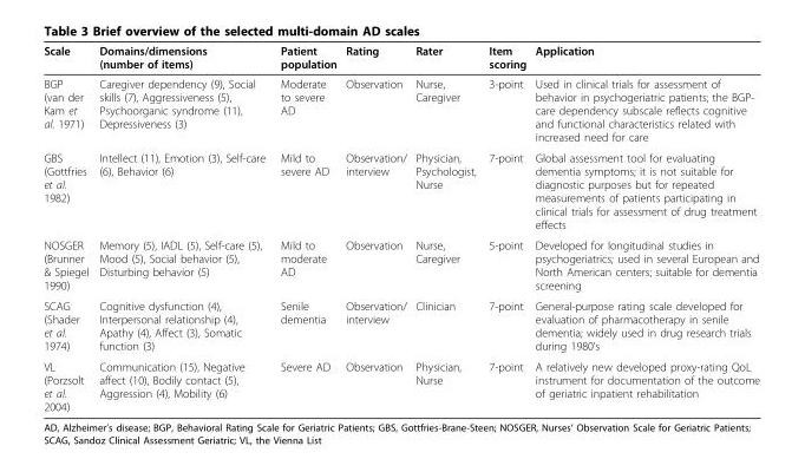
<table><thead><tr><td>Scale</td><td>Domains/dimensions (number of items)</td><td>Patient population</td><td>Rating</td><td>Rater</td><td>Item scoring</td><td>Application</td></tr></thead><tbody><tr><td>BGP (van der Kam et al. 1971)</td><td>Caregiver dependency (9), Social skills (7), Aggressiveness (5), Psychoorganic syndrome (11), Depressiveness (3)</td><td>Moderate to severe AD</td><td>Observation</td><td>Nurse, Caregiver</td><td>3-point</td><td>Used in clinical trials for assessment of behavior in psychogeriatric patients; the BGP- care dependency subscale reflects cognitive and functional characteristics related with increased need for care</td></tr><tr><td>GBS (Gottfries et al. 1982)</td><td>Intellect (11), Emotion (3), Self-care (6), Behavior (6)</td><td>Mild to severe AD</td><td>Observation/ interview</td><td>Physician, Psychologist, Nurse</td><td>7-point</td><td>Global assessment tool for evaluating dementia symptoms; it is not suitable for diagnostic purposes but for repeated measurements of patients participating in clinical trials for assessment of drug treatment effects</td></tr><tr><td>NOSGER (Brunner &amp; Spiegel 1990)</td><td>Memory (5), IADL (5), Self-care (5), Mood (5), Social behavior (5), Disturbing behavior (5)</td><td>Mild to moderate AD</td><td>Observation</td><td>Nurse, Caregiver</td><td>5-point</td><td>Developed for longitudinal studies in psychogeriatrics; used in several European and North American centers; suitable for dementia screening</td></tr><tr><td>SCAG (Shader et al. 1974)</td><td>Cognitive dysfunction (4), Interpersonal relationship (4), Apathy (4), Affect (3), Somatic function (3)</td><td>Senile dementia</td><td>Observation/ interview</td><td>Clinician</td><td>7-point</td><td>General-purpose rating scale developed for evaluation of pharmacotherapy in senile dementia; widely used in drug research trials during 1980’s</td></tr><tr><td>VL (Porzsolt et al. 2004)</td><td>Communication (15), Negative affect (10), Bodily contact (5), Aggression (4), Mobility (6)</td><td>Severe AD</td><td>Observation</td><td>Physician, Nurse</td><td>7-point</td><td>A relatively new developed proxy-rating QoL instrument for documentation of the outcome of geriatric inpatient rehabilitation</td></tr></tbody></table>